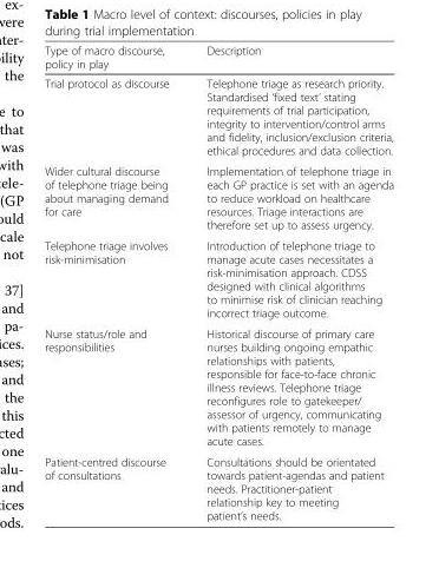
<table><thead><tr><td>Type of macro discourse, policy in play</td><td>Description</td></tr></thead><tbody><tr><td>Trial protocol as discourse</td><td>Telephone triage as research priority. Standardised ‘fixed text’ stating requirements of trial participation, integrity to intervention/control arms and fidelity, inclusion/exclusion criteria, ethical procedures and data collection.</td></tr><tr><td>Wider cultural discourse of telephone triage being about managing demand for care</td><td>Implementation of telephone triage in each GP practice is set with an agenda to reduce workload on healthcare resources. Triage interactions are therefore set up to assess urgency.</td></tr><tr><td>Telephone triage involves risk-minimisation</td><td>Introduction of telephone triage to manage acute cases necessitates a risk-minimisation approach. CDSS designed with clinical algorithms to minimise risk of clinician reaching incorrect triage outcome.</td></tr><tr><td>Nurse status/role and responsibilities</td><td>Historical discourse of primary care nurses building ongoing empathic relationships with patients, responsible for face-to-face chronic illness reviews. Telephone triage reconfigures role to gatekeeper/ assessor of urgency, communicating with patients remotely to manage acute cases.</td></tr><tr><td>Patient-centred discourse of consultations</td><td>Consultations should be orientated towards patient-agendas and patient needs. Practitioner-patient relationship key to meeting patient’s needs.</td></tr></tbody></table>